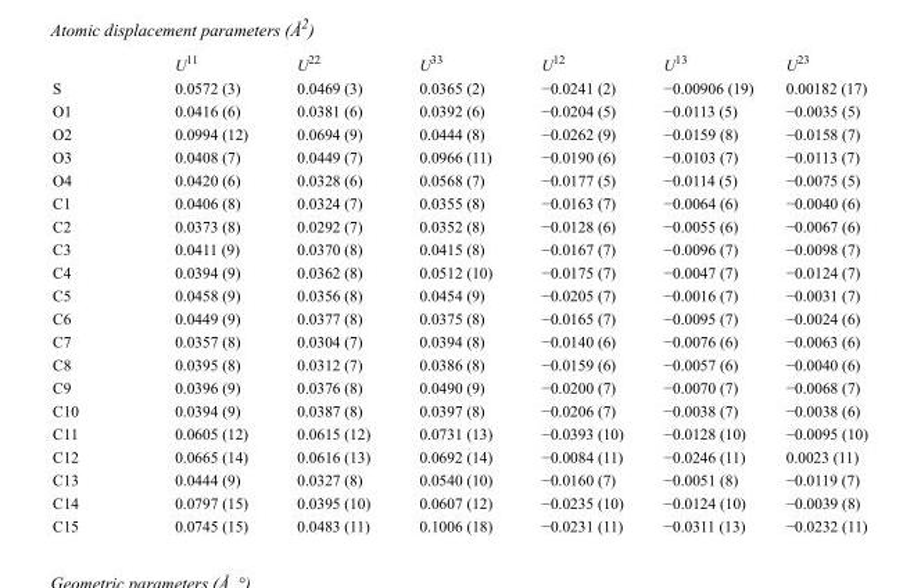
<table><thead><tr><td></td><td>U<sup>11</sup></td><td>U<sup>22</sup></td><td>U<sup>33</sup></td><td>U<sup>12</sup></td><td>U<sup>13</sup></td><td>U<sup>23</sup></td></tr></thead><tbody><tr><td>S</td><td>0.0572 (3)</td><td>0.0469 (3)</td><td>0.0365 (2)</td><td>−0.0241 (2)</td><td>−0.00906 (19)</td><td>0.00182 (17)</td></tr><tr><td>O1</td><td>0.0416 (6)</td><td>0.0381 (6)</td><td>0.0392 (6)</td><td>−0.0204 (5)</td><td>−0.0113 (5)</td><td>−0.0035 (5)</td></tr><tr><td>O2</td><td>0.0994 (12)</td><td>0.0694 (9)</td><td>0.0444 (8)</td><td>−0.0262 (9)</td><td>−0.0159 (8)</td><td>−0.0158 (7)</td></tr><tr><td>O3</td><td>0.0408 (7)</td><td>0.0449 (7)</td><td>0.0966 (11)</td><td>−0.0190 (6)</td><td>−0.0103 (7)</td><td>−0.0113 (7)</td></tr><tr><td>O4</td><td>0.0420 (6)</td><td>0.0328 (6)</td><td>0.0568 (7)</td><td>−0.0177 (5)</td><td>−0.0114 (5)</td><td>−0.0075 (5)</td></tr><tr><td>C1</td><td>0.0406 (8)</td><td>0.0324 (7)</td><td>0.0355 (8)</td><td>−0.0163 (7)</td><td>−0.0064 (6)</td><td>−0.0040 (6)</td></tr><tr><td>C2</td><td>0.0373 (8)</td><td>0.0292 (7)</td><td>0.0352 (8)</td><td>−0.0128 (6)</td><td>−0.0055 (6)</td><td>−0.0067 (6)</td></tr><tr><td>C3</td><td>0.0411 (9)</td><td>0.0370 (8)</td><td>0.0415 (8)</td><td>−0.0167 (7)</td><td>−0.0096 (7)</td><td>−0.0098 (7)</td></tr><tr><td>C4</td><td>0.0394 (9)</td><td>0.0362 (8)</td><td>0.0512 (10)</td><td>−0.0175 (7)</td><td>−0.0047 (7)</td><td>−0.0124 (7)</td></tr><tr><td>C5</td><td>0.0458 (9)</td><td>0.0356 (8)</td><td>0.0454 (9)</td><td>−0.0205 (7)</td><td>−0.0016 (7)</td><td>−0.0031 (7)</td></tr><tr><td>C6</td><td>0.0449 (9)</td><td>0.0377 (8)</td><td>0.0375 (8)</td><td>−0.0165 (7)</td><td>−0.0095 (7)</td><td>−0.0024 (6)</td></tr><tr><td>C7</td><td>0.0357 (8)</td><td>0.0304 (7)</td><td>0.0394 (8)</td><td>−0.0140 (6)</td><td>−0.0076 (6)</td><td>−0.0063 (6)</td></tr><tr><td>C8</td><td>0.0395 (8)</td><td>0.0312 (7)</td><td>0.0386 (8)</td><td>−0.0159 (6)</td><td>−0.0057 (6)</td><td>−0.0040 (6)</td></tr><tr><td>C9</td><td>0.0396 (9)</td><td>0.0376 (8)</td><td>0.0490 (9)</td><td>−0.0200 (7)</td><td>−0.0070 (7)</td><td>−0.0068 (7)</td></tr><tr><td>C10</td><td>0.0394 (9)</td><td>0.0387 (8)</td><td>0.0397 (8)</td><td>−0.0206 (7)</td><td>−0.0038 (7)</td><td>−0.0038 (6)</td></tr><tr><td>C11</td><td>0.0605 (12)</td><td>0.0615 (12)</td><td>0.0731 (13)</td><td>−0.0393 (10)</td><td>−0.0128 (10)</td><td>−0.0095 (10)</td></tr><tr><td>C12</td><td>0.0665 (14)</td><td>0.0616 (13)</td><td>0.0692 (14)</td><td>−0.0084 (11)</td><td>−0.0246 (11)</td><td>0.0023 (11)</td></tr><tr><td>C13</td><td>0.0444 (9)</td><td>0.0327 (8)</td><td>0.0540 (10)</td><td>−0.0160 (7)</td><td>−0.0051 (8)</td><td>−0.0119 (7)</td></tr><tr><td>C14</td><td>0.0797 (15)</td><td>0.0395 (10)</td><td>0.0607 (12)</td><td>−0.0235 (10)</td><td>−0.0124 (10)</td><td>−0.0039 (8)</td></tr><tr><td>C15</td><td>0.0745 (15)</td><td>0.0483 (11)</td><td>0.1006 (18)</td><td>−0.0231 (11)</td><td>−0.0311 (13)</td><td>−0.0232 (11)</td></tr></tbody></table>